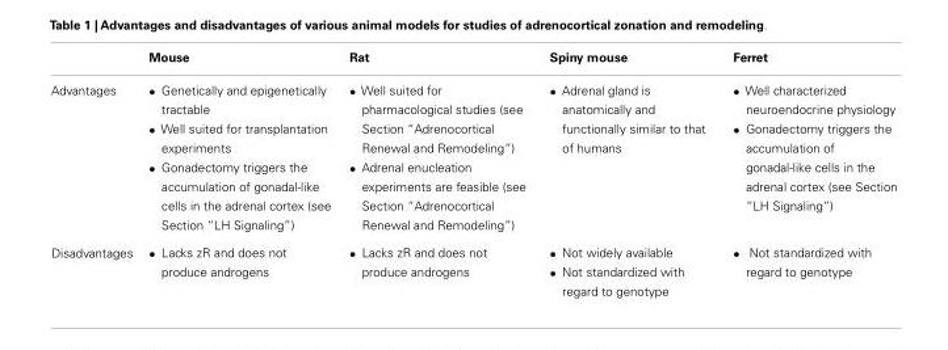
<table><thead><tr><td></td><td>Mouse</td><td>Rat</td><td>Spiny mouse</td><td>Ferret</td></tr></thead><tbody><tr><td>Advantages</td><td>• Genetically and epigenetically tractable • Well suited for transplantation experiments • Gonadectomy triggers the accumulation of gonadal-like cells in the adrenal cortex (see Section “LH Signaling”)</td><td>• Well suited for pharmacological studies (see Section “Adrenocortical Renewal and Remodeling”) • Adrenal enucleation experiments are feasible (see Section “Adrenocortical Renewal and Remodeling”)</td><td>• Adrenal gland is anatomically and functionally similar to that of humans</td><td>• Well characterized neuroendocrine physiology • Gonadectomy triggers the accumulation of gonadal-like cells in the adrenal cortex (see Section “LH Signaling”)</td></tr><tr><td>Disadvantages</td><td>• Lacks zR and does not produce androgens</td><td>• Lacks zR and does not produce androgens</td><td>• Not widely available • Not standardized with regard to genotype</td><td>• Not standardized with regard to genotype</td></tr></tbody></table>